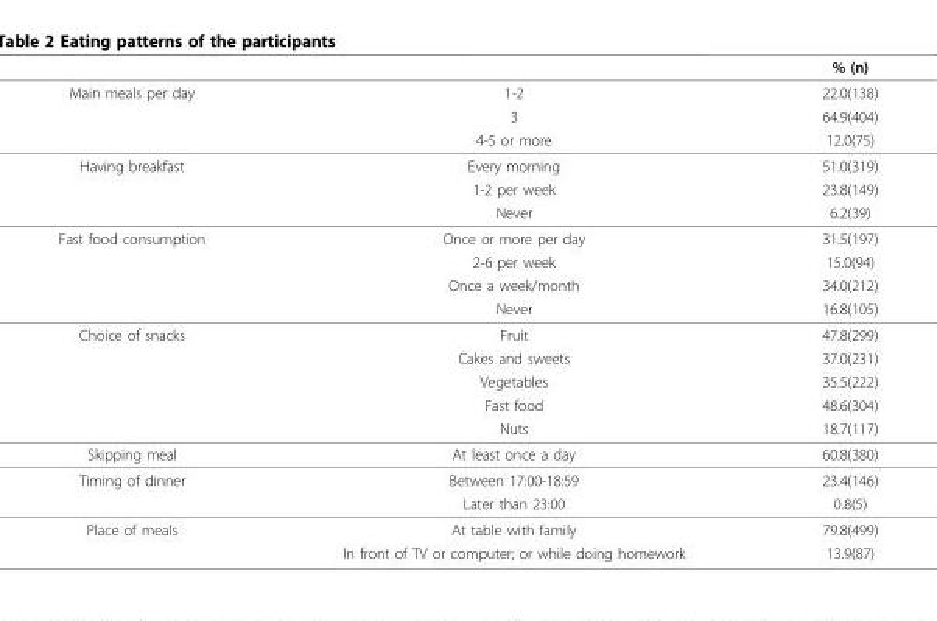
<table><thead><tr><td></td><td></td><td>% (n)</td></tr></thead><tbody><tr><td rowspan="3">Main meals per day</td><td>1-2</td><td>22.0(138)</td></tr><tr><td>3</td><td>64.9(404)</td></tr><tr><td>4-5 or more</td><td>12.0(75)</td></tr><tr><td rowspan="3">Having breakfast</td><td>Every morning</td><td>51.0(319)</td></tr><tr><td>1-2 per week</td><td>23.8(149)</td></tr><tr><td>Never</td><td>6.2(39)</td></tr><tr><td rowspan="4">Fast food consumption</td><td>Once or more per day</td><td>31.5(197)</td></tr><tr><td>2-6 per week</td><td>15.0(94)</td></tr><tr><td>Once a week/month</td><td>34.0(212)</td></tr><tr><td>Never</td><td>16.8(105)</td></tr><tr><td rowspan="5">Choice of snacks</td><td>Fruit</td><td>47.8(299)</td></tr><tr><td>Cakes and sweets</td><td>37.0(231)</td></tr><tr><td>Vegetables</td><td>35.5(222)</td></tr><tr><td>Fast food</td><td>48.6(304)</td></tr><tr><td>Nuts</td><td>18.7(117)</td></tr><tr><td>Skipping meal</td><td>At least once a day</td><td>60.8(380)</td></tr><tr><td rowspan="2">Timing of dinner</td><td>Between 17:00-18:59</td><td>23.4(146)</td></tr><tr><td>Later than 23:00</td><td>0.8(5)</td></tr><tr><td rowspan="2">Place of meals</td><td>At table with family</td><td>79.8(499)</td></tr><tr><td>In front of TV or computer; or while doing homework</td><td>13.9(87)</td></tr></tbody></table>